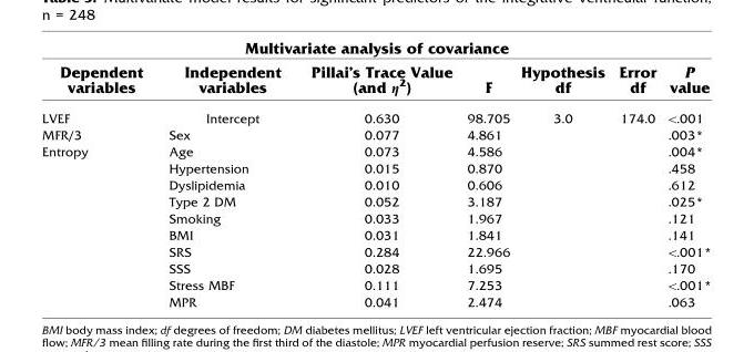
<table><thead><tr><td colspan="7">Multivariate analysis of covariance</td></tr><tr><td>Dependent variables</td><td>Independent variables</td><td>Pillai’s Trace Value (and η<sup>2</sup>)</td><td>F</td><td>Hypothesis df</td><td>Error df</td><td>P value</td></tr></thead><tbody><tr><td rowspan="12">LVEF MFR/3 Entropy</td><td>Intercept</td><td>0.630</td><td>98.705</td><td>3.0</td><td>174.0</td><td>&lt;.001</td></tr><tr><td>Sex</td><td>0.077</td><td>4.861</td><td></td><td></td><td>.003*</td></tr><tr><td>Age</td><td>0.073</td><td>4.586</td><td></td><td></td><td>.004*</td></tr><tr><td>Hypertension</td><td>0.015</td><td>0.870</td><td></td><td></td><td>.458</td></tr><tr><td>Dyslipidemia</td><td>0.010</td><td>0.606</td><td></td><td></td><td>.612</td></tr><tr><td>Type 2 DM</td><td>0.052</td><td>3.187</td><td></td><td></td><td>.025*</td></tr><tr><td>Smoking</td><td>0.033</td><td>1.967</td><td></td><td></td><td>.121</td></tr><tr><td>BMI</td><td>0.031</td><td>1.841</td><td></td><td></td><td>.141</td></tr><tr><td>SRS</td><td>0.284</td><td>22.966</td><td></td><td></td><td>&lt;.001*</td></tr><tr><td>SSS</td><td>0.028</td><td>1.695</td><td></td><td></td><td>.170</td></tr><tr><td>Stress MBF</td><td>0.111</td><td>7.253</td><td></td><td></td><td>&lt;.001*</td></tr><tr><td>MPR</td><td>0.041</td><td>2.474</td><td></td><td></td><td>.063</td></tr></tbody></table>